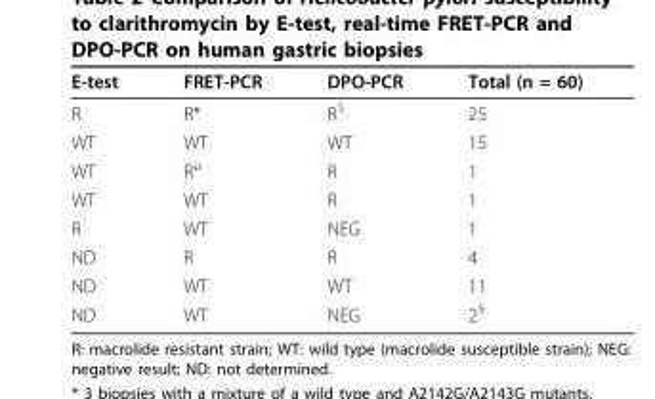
<table><thead><tr><td>E-test</td><td>FRET-PCR</td><td>DPO-PCR</td><td>Total (n = 60)</td></tr></thead><tbody><tr><td>R</td><td>R*</td><td>R<sup>$</sup></td><td>25</td></tr><tr><td>WT</td><td>WT</td><td>WT</td><td>15</td></tr><tr><td>WT</td><td>R<sup>μ</sup></td><td>R</td><td>1</td></tr><tr><td>WT</td><td>WT</td><td>R</td><td>1</td></tr><tr><td>R</td><td>WT</td><td>NEG</td><td>1</td></tr><tr><td>ND</td><td>R</td><td>R</td><td>4</td></tr><tr><td>ND</td><td>WT</td><td>WT</td><td>11</td></tr><tr><td>ND</td><td>WT</td><td>NEG</td><td>2<sup>§</sup></td></tr></tbody></table>